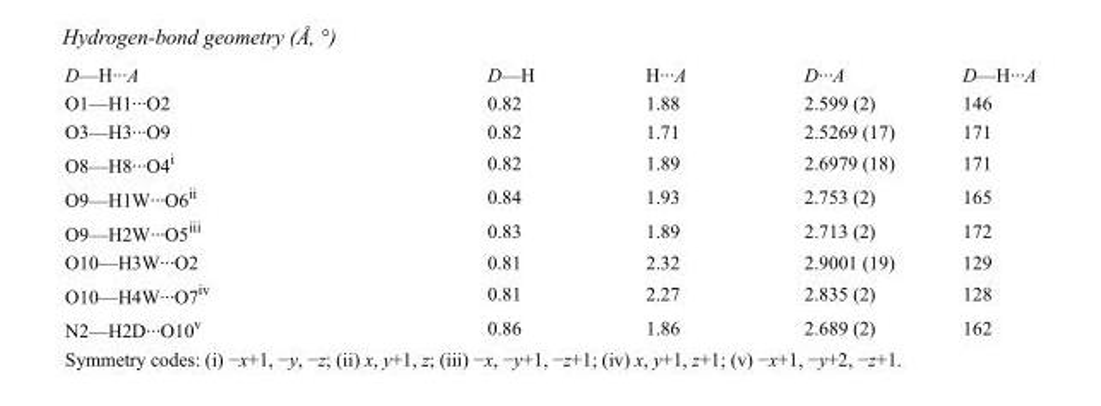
<table><tbody><tr><td>D—H···A</td><td>D—H</td><td>H···A</td><td>D···A</td><td>D—H···A</td></tr><tr><td>O1—H1···O2</td><td>0.82</td><td>1.88</td><td>2.599 (2)</td><td>146</td></tr><tr><td>O3—H3···O9</td><td>0.82</td><td>1.71</td><td>2.5269 (17)</td><td>171</td></tr><tr><td>O8—H8···O4<sup>i</sup></td><td>0.82</td><td>1.89</td><td>2.6979 (18)</td><td>171</td></tr><tr><td>O9—H1W···O6<sup>ii</sup></td><td>0.84</td><td>1.93</td><td>2.753 (2)</td><td>165</td></tr><tr><td>O9—H2W···O5<sup>iii</sup></td><td>0.83</td><td>1.89</td><td>2.713 (2)</td><td>172</td></tr><tr><td>O10—H3W···O2</td><td>0.81</td><td>2.32</td><td>2.9001 (19)</td><td>129</td></tr><tr><td>O10—H4W···O7<sup>iv</sup></td><td>0.81</td><td>2.27</td><td>2.835 (2)</td><td>128</td></tr><tr><td>N2—H2D···O10<sup>v</sup></td><td>0.86</td><td>1.86</td><td>2.689 (2)</td><td>162</td></tr></tbody></table>